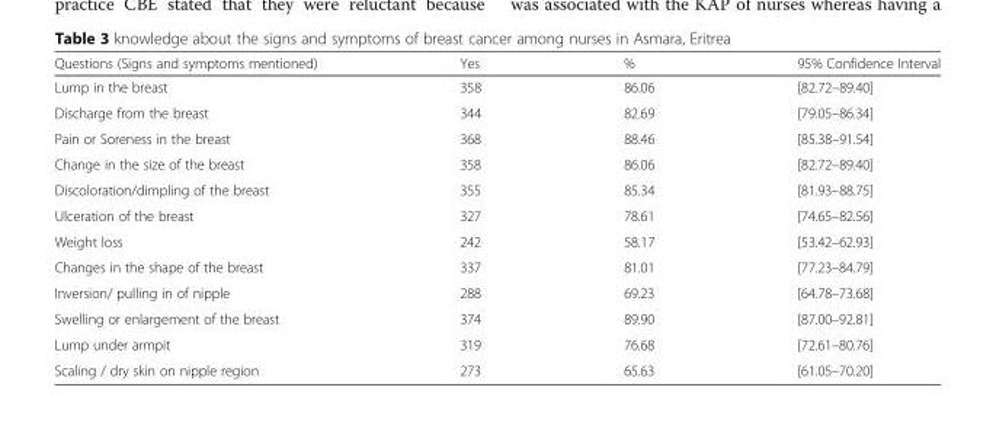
<table><thead><tr><td>Questions (Signs and symptoms mentioned)</td><td>Yes</td><td>%</td><td>95% Confidence Interval</td></tr></thead><tbody><tr><td>Lump in the breast</td><td>358</td><td>86.06</td><td>[82.72–89.40]</td></tr><tr><td>Discharge from the breast</td><td>344</td><td>82.69</td><td>[79.05–86.34]</td></tr><tr><td>Pain or Soreness in the breast</td><td>368</td><td>88.46</td><td>[85.38–91.54]</td></tr><tr><td>Change in the size of the breast</td><td>358</td><td>86.06</td><td>[82.72–89.40]</td></tr><tr><td>Discoloration/dimpling of the breast</td><td>355</td><td>85.34</td><td>[81.93–88.75]</td></tr><tr><td>Ulceration of the breast</td><td>327</td><td>78.61</td><td>[74.65–82.56]</td></tr><tr><td>Weight loss</td><td>242</td><td>58.17</td><td>[53.42–62.93]</td></tr><tr><td>Changes in the shape of the breast</td><td>337</td><td>81.01</td><td>[77.23–84.79]</td></tr><tr><td>Inversion/ pulling in of nipple</td><td>288</td><td>69.23</td><td>[64.78–73.68]</td></tr><tr><td>Swelling or enlargement of the breast</td><td>374</td><td>89.90</td><td>[87.00–92.81]</td></tr><tr><td>Lump under armpit</td><td>319</td><td>76.68</td><td>[72.61–80.76]</td></tr><tr><td>Scaling / dry skin on nipple region</td><td>273</td><td>65.63</td><td>[61.05–70.20]</td></tr></tbody></table>